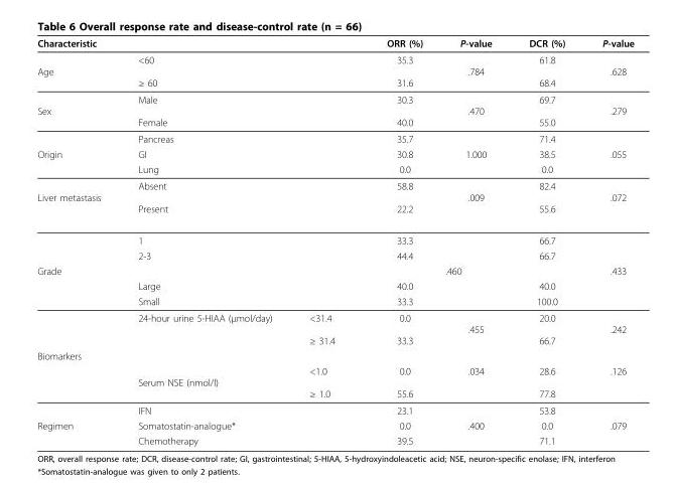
<table><thead><tr><td colspan="3">Characteristic</td><td>ORR (%)</td><td>P-value</td><td>DCR (%)</td><td>P-value</td></tr></thead><tbody><tr><td>Age</td><td colspan="2">&lt;60 ≥ 60</td><td>35.3 31.6</td><td>.784</td><td>61.8 68.4</td><td>.628</td></tr><tr><td rowspan="2">Sex</td><td colspan="2">Male Female</td><td>30.3 40.0</td><td>.470</td><td>69.7 55.0</td><td>.279</td></tr><tr><td colspan="2">Pancreas</td><td>35.7</td><td></td><td>71.4</td><td></td></tr><tr><td rowspan="2">Origin</td><td colspan="2">GI</td><td>30.8</td><td>1.000</td><td>38.5</td><td>.055</td></tr><tr><td colspan="2">Lung</td><td>0.0</td><td></td><td>0.0</td><td></td></tr><tr><td rowspan="3">Liver metastasis</td><td colspan="2">Absent Present</td><td>58.8 22.2</td><td>.009</td><td>82.4 55.6</td><td>.072</td></tr><tr><td colspan="2">1</td><td>33.3</td><td></td><td>66.7</td><td></td></tr><tr><td colspan="2">2-3</td><td>44.4</td><td></td><td>66.7</td><td></td></tr><tr><td rowspan="4">Grade</td><td colspan="2"></td><td></td><td>.460</td><td></td><td>.433</td></tr><tr><td colspan="2">Large</td><td>40.0</td><td></td><td>40.0</td><td></td></tr><tr><td colspan="2">Small</td><td>33.3</td><td></td><td>100.0</td><td></td></tr><tr><td>24-hour urine 5-HIAA (μmol/day)</td><td>&lt;31.4 ≥ 31.4</td><td>0.0 33.3</td><td>.455</td><td>20.0 66.7</td><td>.242</td></tr><tr><td colspan="7">Biomarkers</td></tr><tr><td></td><td>Serum NSE (nmol/l)</td><td>&lt;1.0 ≥ 1.0</td><td>0.0 55.6</td><td>.034</td><td>28.6 77.8</td><td>.126</td></tr><tr><td></td><td colspan="2">IFN</td><td>23.1</td><td></td><td>53.8</td><td></td></tr><tr><td rowspan="2">Regimen</td><td colspan="2">Somatostatin-analogue*</td><td>0.0</td><td>.400</td><td>0.0</td><td>.079</td></tr><tr><td colspan="2">Chemotherapy</td><td>39.5</td><td></td><td>71.1</td><td></td></tr></tbody></table>